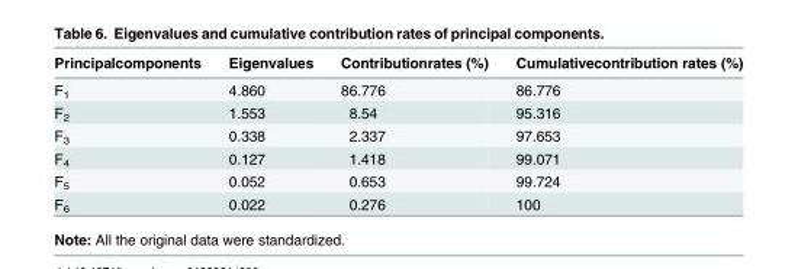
<table><thead><tr><td>Principalcomponents</td><td>Eigenvalues</td><td>Contributionrates (%)</td><td>Cumulativecontribution rates (%)</td></tr></thead><tbody><tr><td>F<sub>1</sub></td><td>4.860</td><td>86.776</td><td>86.776</td></tr><tr><td>F<sub>2</sub></td><td>1.553</td><td>8.54</td><td>95.316</td></tr><tr><td>F<sub>3</sub></td><td>0.338</td><td>2.337</td><td>97.653</td></tr><tr><td>F<sub>4</sub></td><td>0.127</td><td>1.418</td><td>99.071</td></tr><tr><td>F<sub>5</sub></td><td>0.052</td><td>0.653</td><td>99.724</td></tr><tr><td>F<sub>6</sub></td><td>0.022</td><td>0.276</td><td>100</td></tr></tbody></table>